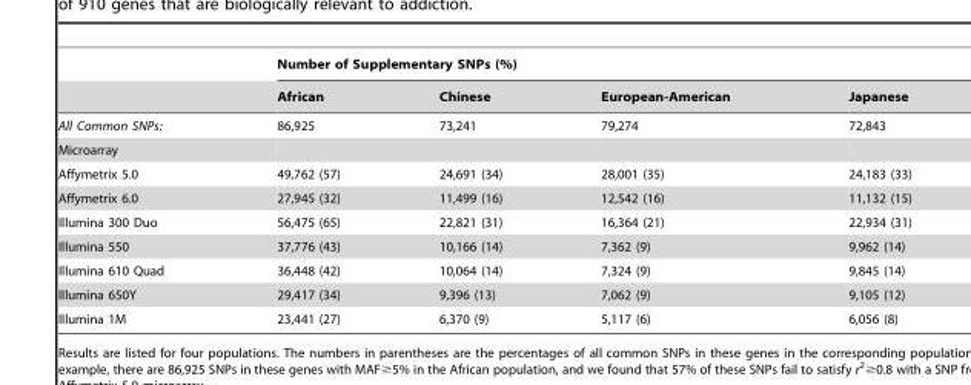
<table><thead><tr><td rowspan="2"></td><td colspan="4">Number of Supplementary SNPs (%)</td></tr><tr><td>African</td><td>Chinese</td><td>European-American</td><td>Japanese</td></tr></thead><tbody><tr><td>All Common SNPs:</td><td>86,925</td><td>73,241</td><td>79,274</td><td>72,843</td></tr><tr><td colspan="5">Microarray</td></tr><tr><td>Affymetrix 5.0</td><td>49,762 (57)</td><td>24,691 (34)</td><td>28,001 (35)</td><td>24,183 (33)</td></tr><tr><td>Affymetrix 6.0</td><td>27,945 (32)</td><td>11,499 (16)</td><td>12,542 (16)</td><td>11,132 (15)</td></tr><tr><td>Illumina 300 Duo</td><td>56,475 (65)</td><td>22,821 (31)</td><td>16,364 (21)</td><td>22,934 (31)</td></tr><tr><td>Illumina 550</td><td>37,776 (43)</td><td>10,166 (14)</td><td>7,362 (9)</td><td>9,962 (14)</td></tr><tr><td>Illumina 610 Quad</td><td>36,448 (42)</td><td>10,064 (14)</td><td>7,324 (9)</td><td>9,845 (14)</td></tr><tr><td>Illumina 650Y</td><td>29,417 (34)</td><td>9,396 (13)</td><td>7,062 (9)</td><td>9,105 (12)</td></tr><tr><td>Illumina 1M</td><td>23,441 (27)</td><td>6,370 (9)</td><td>5,117 (6)</td><td>6,056 (8)</td></tr></tbody></table>